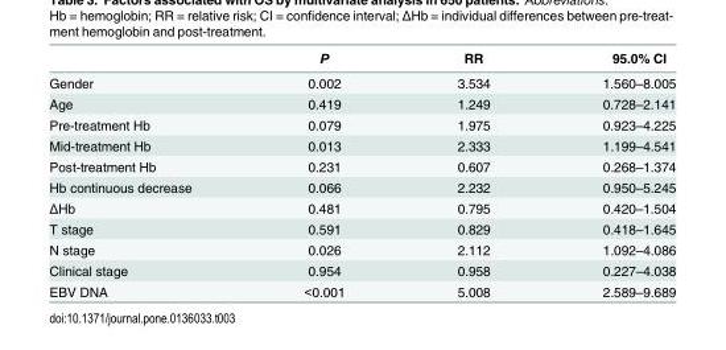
<table><thead><tr><td></td><td>P</td><td>RR</td><td>95.0% CI</td></tr></thead><tbody><tr><td>Gender</td><td>0.002</td><td>3.534</td><td>1.560–8.005</td></tr><tr><td>Age</td><td>0.419</td><td>1.249</td><td>0.728–2.141</td></tr><tr><td>Pre-treatment Hb</td><td>0.079</td><td>1.975</td><td>0.923–4.225</td></tr><tr><td>Mid-treatment Hb</td><td>0.013</td><td>2.333</td><td>1.199–4.541</td></tr><tr><td>Post-treatment Hb</td><td>0.231</td><td>0.607</td><td>0.268–1.374</td></tr><tr><td>Hb continuous decrease</td><td>0.066</td><td>2.232</td><td>0.950–5.245</td></tr><tr><td>ΔHb</td><td>0.481</td><td>0.795</td><td>0.420–1.504</td></tr><tr><td>T stage</td><td>0.591</td><td>0.829</td><td>0.418–1.645</td></tr><tr><td>N stage</td><td>0.026</td><td>2.112</td><td>1.092–4.086</td></tr><tr><td>Clinical stage</td><td>0.954</td><td>0.958</td><td>0.227–4.038</td></tr><tr><td>EBV DNA</td><td>&lt;0.001</td><td>5.008</td><td>2.589–9.689</td></tr></tbody></table>